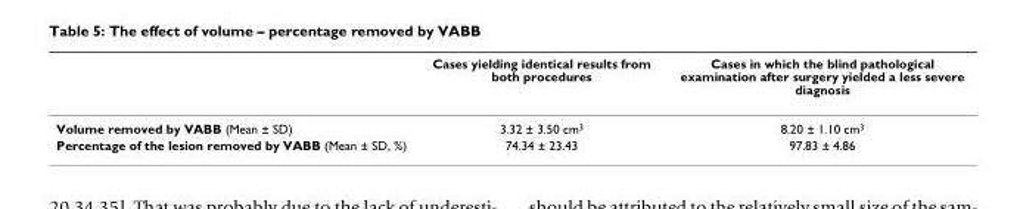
<table><thead><tr><td></td><td>Cases yielding identical results from both procedures</td><td>Cases in which the blind pathological examination after surgery yielded a less severe diagnosis</td></tr></thead><tbody><tr><td>Volume removed by VABB (Mean ± SD)</td><td>3.32 ± 3.50 cm<sup>3</sup></td><td>8.20 ± 1.10 cm<sup>3</sup></td></tr><tr><td>Percentage of the lesion removed by VABB (Mean ± SD, %)</td><td>74.34 ± 23.43</td><td>97.83 ± 4.86</td></tr></tbody></table>